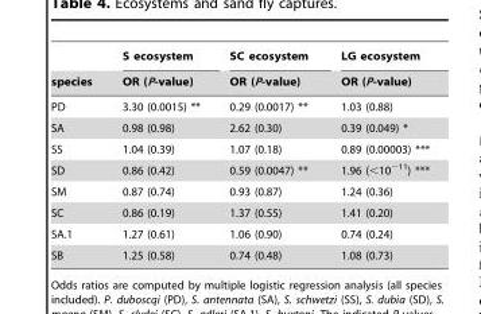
<table><thead><tr><td rowspan="2">species</td><td rowspan="2">S ecosystem OR (P-value)</td><td rowspan="2">SC ecosystem OR (P-value)</td><td rowspan="2">LG ecosystem OR (P-value)</td></tr><tr></tr></thead><tbody><tr><td>PD</td><td>3.30 (0.0015) **</td><td>0.29 (0.0017) **</td><td>1.03 (0.88)</td></tr><tr><td>SA</td><td>0.98 (0.98)</td><td>2.62 (0.30)</td><td>0.39 (0.049) *</td></tr><tr><td>SS</td><td>1.04 (0.39)</td><td>1.07 (0.18)</td><td>0.89 (0.00003) ***</td></tr><tr><td>SD</td><td>0.86 (0.42)</td><td>0.59 (0.0047) **</td><td>1.96 (&lt;10<sup>−11</sup>) ***</td></tr><tr><td>SM</td><td>0.87 (0.74)</td><td>0.93 (0.87)</td><td>1.24 (0.36)</td></tr><tr><td>SC</td><td>0.86 (0.19)</td><td>1.37 (0.55)</td><td>1.41 (0.20)</td></tr><tr><td>SA.1</td><td>1.27 (0.61)</td><td>1.06 (0.90)</td><td>0.74 (0.24)</td></tr><tr><td>SB</td><td>1.25 (0.58)</td><td>0.74 (0.48)</td><td>1.08 (0.73)</td></tr></tbody></table>